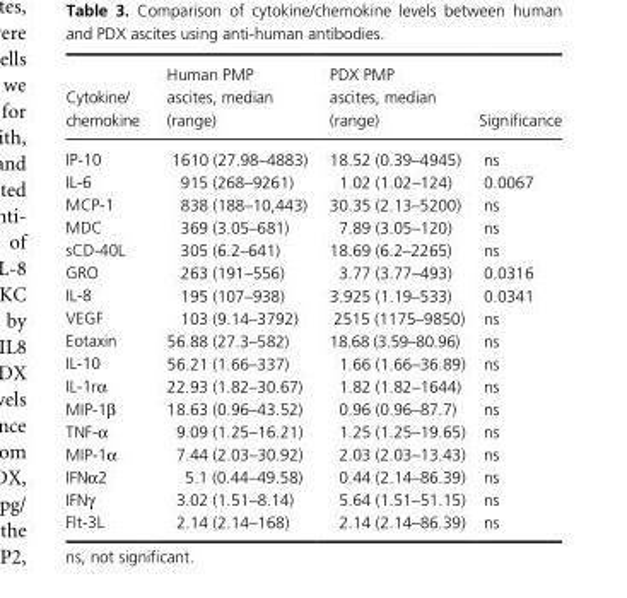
<table><thead><tr><td>Cytokine/ chemokine</td><td>Human PMP ascites, median (range)</td><td>PDX PMP ascites, median (range)</td><td>Significance</td></tr></thead><tbody><tr><td>IP- 10</td><td>1610 (27.98–4883)</td><td>18.52 (0.39–4945)</td><td>ns</td></tr><tr><td>IL- 6</td><td>915 (268–9261)</td><td>1.02 (1.02–124)</td><td>0.0067</td></tr><tr><td>MCP- 1</td><td>838 (188–10,443)</td><td>30.35 (2.13–5200)</td><td>ns</td></tr><tr><td>MDC</td><td>369 (3.05–681)</td><td>7.89 (3.05–120)</td><td>ns</td></tr><tr><td>sCD- 40L</td><td>305 (6.2–641)</td><td>18.69 (6.2–2265)</td><td>ns</td></tr><tr><td>GRO</td><td>263 (191–556)</td><td>3.77 (3.77–493)</td><td>0.0316</td></tr><tr><td>IL- 8</td><td>195 (107–938)</td><td>3.925 (1.19–533)</td><td>0.0341</td></tr><tr><td>VEGF</td><td>103 (9.14–3792)</td><td>2515 (1175–9850)</td><td>ns</td></tr><tr><td>Eotaxin</td><td>56.88 (27.3–582)</td><td>18.68 (3.59–80.96)</td><td>ns</td></tr><tr><td>IL- 10</td><td>56.21 (1.66–337)</td><td>1.66 (1.66–36.89)</td><td>ns</td></tr><tr><td>IL- 1rα</td><td>22.93 (1.82–30.67)</td><td>1.82 (1.82–1644)</td><td>ns</td></tr><tr><td>MIP- 1β</td><td>18.63 (0.96–43.52)</td><td>0.96 (0.96–87.7)</td><td>ns</td></tr><tr><td>TNF- α</td><td>9.09 (1.25–16.21)</td><td>1.25 (1.25–19.65)</td><td>ns</td></tr><tr><td>MIP- 1α</td><td>7.44 (2.03–30.92)</td><td>2.03 (2.03–13.43)</td><td>ns</td></tr><tr><td>IFNα2</td><td>5.1 (0.44–49.58)</td><td>0.44 (2.14–86.39)</td><td>ns</td></tr><tr><td>IFNγ</td><td>3.02 (1.51–8.14)</td><td>5.64 (1.51–51.15)</td><td>ns</td></tr><tr><td>Flt- 3L</td><td>2.14 (2.14–168)</td><td>2.14 (2.14–86.39)</td><td>ns</td></tr></tbody></table>